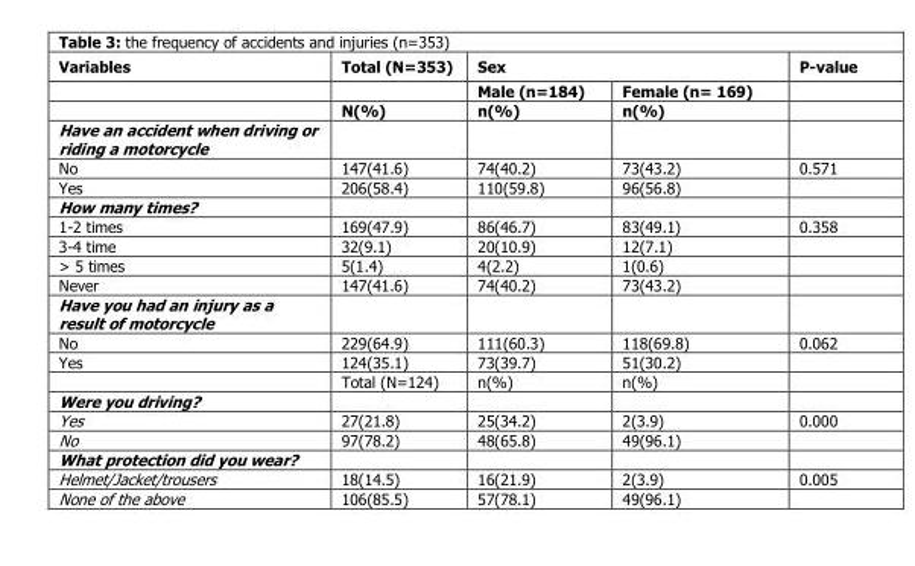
<table><thead><tr><td rowspan="3">Variables</td><td rowspan="3">Total (N=353) N(%)</td><td colspan="2">Sex</td><td rowspan="3">P-value</td></tr><tr><td rowspan="2">Male (n=184) n(%)</td><td rowspan="2">Female (n= 169) n(%)</td></tr><tr></tr></thead><tbody><tr><td colspan="5">Have an accident when driving or riding a motorcycle</td></tr><tr><td>No</td><td>147(41.6)</td><td>74(40.2)</td><td>73(43.2)</td><td>0.571</td></tr><tr><td>Yes</td><td>206(58.4)</td><td>110(59.8)</td><td>96(56.8)</td><td></td></tr><tr><td colspan="5">How many times?</td></tr><tr><td>1-2 times</td><td>169(47.9)</td><td>86(46.7)</td><td>83(49.1)</td><td>0.358</td></tr><tr><td>3-4 time</td><td>32(9.1)</td><td>20(10.9)</td><td>12(7.1)</td><td></td></tr><tr><td>&gt; 5 times</td><td>5(1.4)</td><td>4(2.2)</td><td>1(0.6)</td><td></td></tr><tr><td>Never</td><td>147(41.6)</td><td>74(40.2)</td><td>73(43.2)</td><td></td></tr><tr><td colspan="5">Have you had an injury as a result of motorcycle</td></tr><tr><td>No</td><td>229(64.9)</td><td>111(60.3)</td><td>118(69.8)</td><td>0.062</td></tr><tr><td rowspan="2">Yes</td><td>124(35.1)</td><td>73(39.7)</td><td>51(30.2)</td><td></td></tr><tr><td>Total (N=124)</td><td>n(%)</td><td>n(%)</td><td></td></tr><tr><td colspan="5">Were you driving?</td></tr><tr><td>Yes</td><td>27(21.8)</td><td>25(34.2)</td><td>2(3.9)</td><td>0.000</td></tr><tr><td>No</td><td>97(78.2)</td><td>48(65.8)</td><td>49(96.1)</td><td></td></tr><tr><td colspan="5">What protection did you wear?</td></tr><tr><td>Helmet/Jacket/trousers</td><td>18(14.5)</td><td>16(21.9)</td><td>2(3.9)</td><td>0.005</td></tr><tr><td>None of the above</td><td>106(85.5)</td><td>57(78.1)</td><td>49(96.1)</td><td></td></tr></tbody></table>